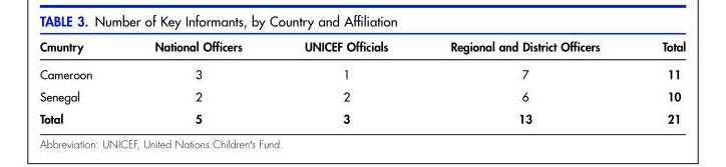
<table><thead><tr><td>Cmuntry</td><td>National Officers</td><td>UNICEF Officials</td><td>Regional and District Officers</td><td>Total</td></tr></thead><tbody><tr><td>Cameroon</td><td>3</td><td>1</td><td>7</td><td>11</td></tr><tr><td>Senegal</td><td>2</td><td>2</td><td>6</td><td>10</td></tr><tr><td>Total</td><td>5</td><td>3</td><td>13</td><td>21</td></tr></tbody></table>